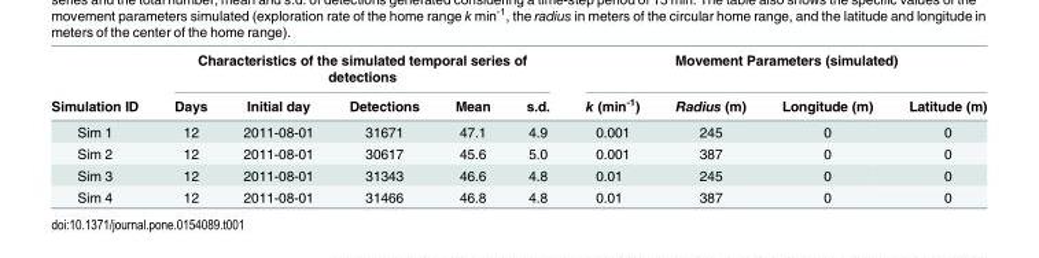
<table><thead><tr><td rowspan="2">Simulation ID</td><td colspan="5">Characteristics of the simulated temporal series of detections</td><td colspan="4">Movement Parameters (simulated)</td></tr><tr><td>Days</td><td>Initial day</td><td>Detections</td><td>Mean</td><td>s.d.</td><td>k (min<sup>-1</sup>)</td><td>Radius (m)</td><td>Longitude (m)</td><td>Latitude (m)</td></tr></thead><tbody><tr><td>Sim 1</td><td>12</td><td>2011-08-01</td><td>31671</td><td>47.1</td><td>4.9</td><td>0.001</td><td>245</td><td>0</td><td>0</td></tr><tr><td>Sim 2</td><td>12</td><td>2011-08-01</td><td>30617</td><td>45.6</td><td>5.0</td><td>0.001</td><td>387</td><td>0</td><td>0</td></tr><tr><td>Sim 3</td><td>12</td><td>2011-08-01</td><td>31343</td><td>46.6</td><td>4.8</td><td>0.01</td><td>245</td><td>0</td><td>0</td></tr><tr><td>Sim 4</td><td>12</td><td>2011-08-01</td><td>31466</td><td>46.8</td><td>4.8</td><td>0.01</td><td>387</td><td>0</td><td>0</td></tr></tbody></table>